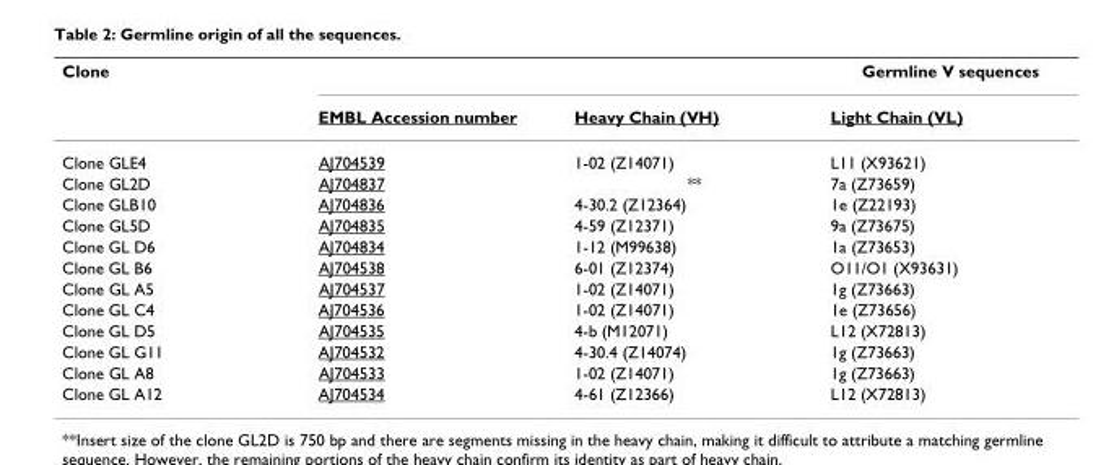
<table><thead><tr><td rowspan="2">Clone</td><td rowspan="2">EMBL Accession number</td><td rowspan="2">Heavy Chain (VH)</td><td rowspan="2">Germline V sequences Light Chain (VL)</td></tr><tr></tr></thead><tbody><tr><td>Clone GLE4</td><td>AJ704539</td><td>1-02 (Z14071)</td><td>L11 (X93621)</td></tr><tr><td>Clone GL2D</td><td>AJ704837</td><td>**</td><td>7a (Z73659)</td></tr><tr><td>Clone GLB10</td><td>AJ704836</td><td>4-30.2 (Z12364)</td><td>1e (Z22193)</td></tr><tr><td>Clone GL5D</td><td>AJ704835</td><td>4-59 (Z12371)</td><td>9a (Z73675)</td></tr><tr><td>Clone GL D6</td><td>AJ704834</td><td>1-12 (M99638)</td><td>1a (Z73653)</td></tr><tr><td>Clone GL B6</td><td>AJ704538</td><td>6-01 (Z12374)</td><td>O11/O1 (X93631)</td></tr><tr><td>Clone GL A5</td><td>AJ704537</td><td>1-02 (Z14071)</td><td>1g (Z73663)</td></tr><tr><td>Clone GL C4</td><td>AJ704536</td><td>1-02 (Z14071)</td><td>1e (Z73656)</td></tr><tr><td>Clone GL D5</td><td>AJ704535</td><td>4-b (M12071)</td><td>L12 (X72813)</td></tr><tr><td>Clone GL G11</td><td>AJ704532</td><td>4-30.4 (Z14074)</td><td>1g (Z73663)</td></tr><tr><td>Clone GL A8</td><td>AJ704533</td><td>1-02 (Z14071)</td><td>1g (Z73663)</td></tr><tr><td>Clone GL A12</td><td>AJ704534</td><td>4-61 (Z12366)</td><td>L12 (X72813)</td></tr></tbody></table>